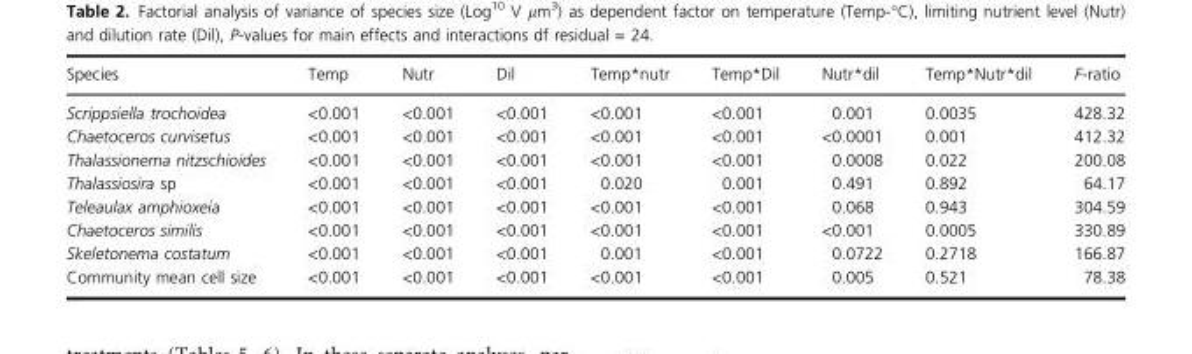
<table><thead><tr><td>Species</td><td>Temp</td><td>Nutr</td><td>Dil</td><td>Temp*nutr</td><td>Temp*Dil</td><td>Nutr*dil</td><td>Temp*Nutr*dil</td><td>F-ratio</td></tr></thead><tbody><tr><td>Scrippsiella trochoidea</td><td>&lt;0.001</td><td>&lt;0.001</td><td>&lt;0.001</td><td>&lt;0.001</td><td>&lt;0.001</td><td>0.001</td><td>0.0035</td><td>428.32</td></tr><tr><td>Chaetoceros curvisetus</td><td>&lt;0.001</td><td>&lt;0.001</td><td>&lt;0.001</td><td>&lt;0.001</td><td>&lt;0.001</td><td>&lt;0.0001</td><td>0.001</td><td>412.32</td></tr><tr><td>Thalassionema nitzschioides</td><td>&lt;0.001</td><td>&lt;0.001</td><td>&lt;0.001</td><td>&lt;0.001</td><td>&lt;0.001</td><td>0.0008</td><td>0.022</td><td>200.08</td></tr><tr><td>Thalassiosira sp</td><td>&lt;0.001</td><td>&lt;0.001</td><td>&lt;0.001</td><td>0.020</td><td>0.001</td><td>0.491</td><td>0.892</td><td>64.17</td></tr><tr><td>Teleaulax amphioxeia</td><td>&lt;0.001</td><td>&lt;0.001</td><td>&lt;0.001</td><td>&lt;0.001</td><td>&lt;0.001</td><td>0.068</td><td>0.943</td><td>304.59</td></tr><tr><td>Chaetoceros similis</td><td>&lt;0.001</td><td>&lt;0.001</td><td>&lt;0.001</td><td>&lt;0.001</td><td>&lt;0.001</td><td>&lt;0.001</td><td>0.0005</td><td>330.89</td></tr><tr><td>Skeletonema costatum</td><td>&lt;0.001</td><td>&lt;0.001</td><td>&lt;0.001</td><td>0.001</td><td>&lt;0.001</td><td>0.0722</td><td>0.2718</td><td>166.87</td></tr><tr><td>Community mean cell size</td><td>&lt;0.001</td><td>&lt;0.001</td><td>&lt;0.001</td><td>&lt;0.001</td><td>&lt;0.001</td><td>0.005</td><td>0.521</td><td>78.38</td></tr></tbody></table>